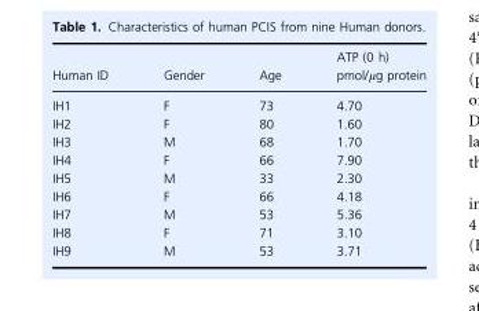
<table><thead><tr><td>Human ID</td><td>Gender</td><td>Age</td><td>ATP (0 h) pmol/μg protein</td></tr></thead><tbody><tr><td>IH1</td><td>F</td><td>73</td><td>4.70</td></tr><tr><td>IH2</td><td>F</td><td>80</td><td>1.60</td></tr><tr><td>IH3</td><td>M</td><td>68</td><td>1.70</td></tr><tr><td>IH4</td><td>F</td><td>66</td><td>7.90</td></tr><tr><td>IH5</td><td>M</td><td>33</td><td>2.30</td></tr><tr><td>IH6</td><td>F</td><td>66</td><td>4.18</td></tr><tr><td>IH7</td><td>M</td><td>53</td><td>5.36</td></tr><tr><td>IH8</td><td>F</td><td>71</td><td>3.10</td></tr><tr><td>IH9</td><td>M</td><td>53</td><td>3.71</td></tr></tbody></table>